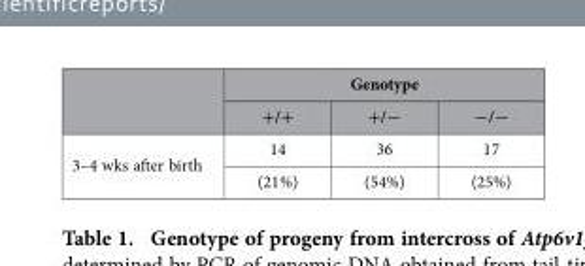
<table><thead><tr><td rowspan="2"></td><td colspan="3">Genotype</td></tr><tr><td>+/+</td><td>+/−</td><td>−/−</td></tr></thead><tbody><tr><td rowspan="2">3–4 wks after birth</td><td>14</td><td>36</td><td>17</td></tr><tr><td>(21%)</td><td>(54%)</td><td>(25%)</td></tr></tbody></table>